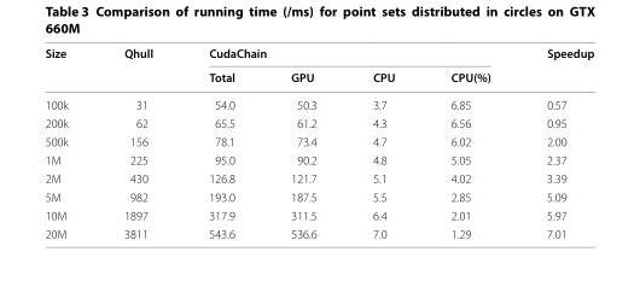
<table><thead><tr><td rowspan="2">Size</td><td rowspan="2">Qhull</td><td colspan="4">CudaChain</td><td rowspan="2">Speedup</td></tr><tr><td>Total</td><td>GPU</td><td>CPU</td><td>CPU(%)</td></tr></thead><tbody><tr><td>100k</td><td>31</td><td>54.0</td><td>50.3</td><td>3.7</td><td>6.85</td><td>0.57</td></tr><tr><td>200k</td><td>62</td><td>65.5</td><td>61.2</td><td>4.3</td><td>6.56</td><td>0.95</td></tr><tr><td>500k</td><td>156</td><td>78.1</td><td>73.4</td><td>4.7</td><td>6.02</td><td>2.00</td></tr><tr><td>1M</td><td>225</td><td>95.0</td><td>90.2</td><td>4.8</td><td>5.05</td><td>2.37</td></tr><tr><td>2M</td><td>430</td><td>126.8</td><td>121.7</td><td>5.1</td><td>4.02</td><td>3.39</td></tr><tr><td>5M</td><td>982</td><td>193.0</td><td>187.5</td><td>5.5</td><td>2.85</td><td>5.09</td></tr><tr><td>10M</td><td>1897</td><td>317.9</td><td>311.5</td><td>6.4</td><td>2.01</td><td>5.97</td></tr><tr><td>20M</td><td>3811</td><td>543.6</td><td>536.6</td><td>7.0</td><td>1.29</td><td>7.01</td></tr></tbody></table>